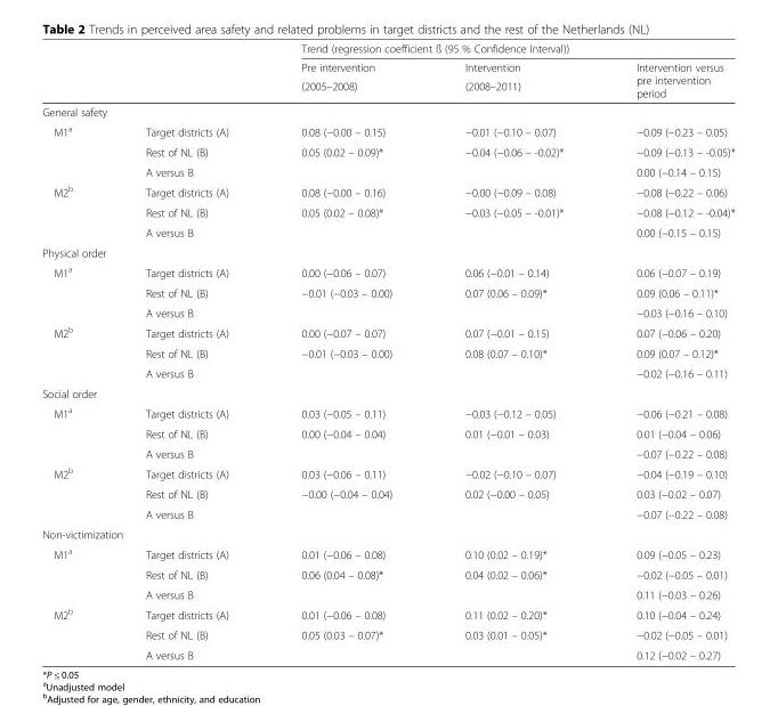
<table><thead><tr><td rowspan="3"></td><td rowspan="3"></td><td colspan="3">Trend (regression coefficient ß (95 % Confidence Interval))</td></tr><tr><td rowspan="2">Pre intervention (2005–2008)</td><td rowspan="2">Intervention (2008–2011)</td><td rowspan="2">Intervention versus pre intervention period</td></tr><tr></tr></thead><tbody><tr><td colspan="5">General safety</td></tr><tr><td rowspan="3">M1<sup>a</sup></td><td>Target districts (A)</td><td>0.08 (−0.00 – 0.15)</td><td>−0.01 (−0.10 – 0.07)</td><td>−0.09 (−0.23 – 0.05)</td></tr><tr><td>Rest of NL (B)</td><td>0.05 (0.02 – 0.09)*</td><td>−0.04 (−0.06 – -0.02)*</td><td>−0.09 (−0.13 – -0.05)*</td></tr><tr><td>A versus B</td><td></td><td></td><td>0.00 (−0.14 – 0.15)</td></tr><tr><td rowspan="3">M2<sup>b</sup></td><td>Target districts (A)</td><td>0.08 (−0.00 – 0.16)</td><td>−0.00 (−0.09 – 0.08)</td><td>−0.08 (−0.22 – 0.06)</td></tr><tr><td>Rest of NL (B)</td><td>0.05 (0.02 – 0.08)*</td><td>−0.03 (−0.05 – -0.01)*</td><td>−0.08 (−0.12 – -0.04)*</td></tr><tr><td>A versus B</td><td></td><td></td><td>0.00 (−0.15 – 0.15)</td></tr><tr><td colspan="5">Physical order</td></tr><tr><td rowspan="3">M1<sup>a</sup></td><td>Target districts (A)</td><td>0.00 (−0.06 – 0.07)</td><td>0.06 (−0.01 – 0.14)</td><td>0.06 (−0.07 – 0.19)</td></tr><tr><td>Rest of NL (B)</td><td>−0.01 (−0.03 – 0.00)</td><td>0.07 (0.06 – 0.09)*</td><td>0.09 (0.06 – 0.11)*</td></tr><tr><td>A versus B</td><td></td><td></td><td>−0.03 (−0.16 – 0.10)</td></tr><tr><td rowspan="3">M2<sup>b</sup></td><td>Target districts (A)</td><td>0.00 (−0.07 – 0.07)</td><td>0.07 (−0.01 – 0.15)</td><td>0.07 (−0.06 – 0.20)</td></tr><tr><td>Rest of NL (B)</td><td>−0.01 (−0.03 – 0.00)</td><td>0.08 (0.07 – 0.10)*</td><td>0.09 (0.07 – 0.12)*</td></tr><tr><td>A versus B</td><td></td><td></td><td>−0.02 (−0.16 – 0.11)</td></tr><tr><td colspan="5">Social order</td></tr><tr><td rowspan="3">M1<sup>a</sup></td><td>Target districts (A)</td><td>0.03 (−0.05 – 0.11)</td><td>−0.03 (−0.12 – 0.05)</td><td>−0.06 (−0.21 – 0.08)</td></tr><tr><td>Rest of NL (B)</td><td>0.00 (−0.04 – 0.04)</td><td>0.01 (−0.01 – 0.03)</td><td>0.01 (−0.04 – 0.06)</td></tr><tr><td>A versus B</td><td></td><td></td><td>−0.07 (−0.22 – 0.08)</td></tr><tr><td rowspan="3">M2<sup>b</sup></td><td>Target districts (A)</td><td>0.03 (−0.06 – 0.11)</td><td>−0.02 (−0.10 – 0.07)</td><td>−0.04 (−0.19 – 0.10)</td></tr><tr><td>Rest of NL (B)</td><td>−0.00 (−0.04 – 0.04)</td><td>0.02 (−0.00 – 0.05)</td><td>0.03 (−0.02 – 0.07)</td></tr><tr><td>A versus B</td><td></td><td></td><td>−0.07 (−0.22 – 0.08)</td></tr><tr><td colspan="5">Non-victimization</td></tr><tr><td rowspan="3">M1<sup>a</sup></td><td>Target districts (A)</td><td>0.01 (−0.06 – 0.08)</td><td>0.10 (0.02 – 0.19)*</td><td>0.09 (−0.05 – 0.23)</td></tr><tr><td>Rest of NL (B)</td><td>0.06 (0.04 – 0.08)*</td><td>0.04 (0.02 – 0.06)*</td><td>−0.02 (−0.05 – 0.01)</td></tr><tr><td>A versus B</td><td></td><td></td><td>0.11 (−0.03 – 0.26)</td></tr><tr><td rowspan="3">M2<sup>b</sup></td><td>Target districts (A)</td><td>0.01 (−0.06 – 0.08)</td><td>0.11 (0.02 – 0.20)*</td><td>0.10 (−0.04 – 0.24)</td></tr><tr><td>Rest of NL (B)</td><td>0.05 (0.03 – 0.07)*</td><td>0.03 (0.01 – 0.05)*</td><td>−0.02 (−0.05 – 0.01)</td></tr><tr><td>A versus B</td><td></td><td></td><td>0.12 (−0.02 – 0.27)</td></tr></tbody></table>